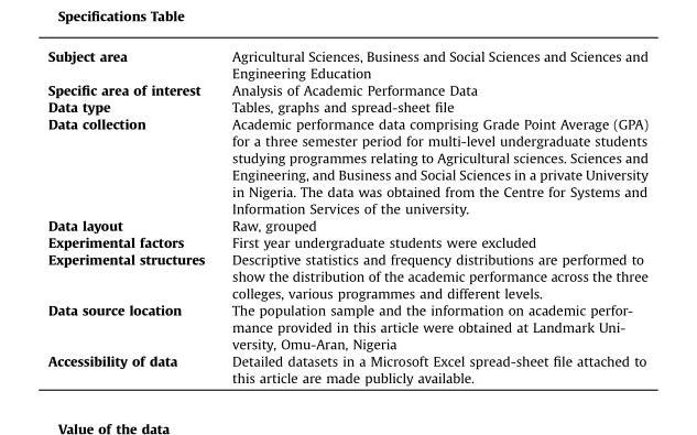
<table><tbody><tr><td>Subject area</td><td>Agricultural Sciences, Business and Social Sciences and Sciences and Engineering Education</td></tr><tr><td>Specific area of interest</td><td>Analysis of Academic Performance Data</td></tr><tr><td>Data type</td><td>Tables, graphs and spread-sheet file</td></tr><tr><td>Data collection</td><td>Academic performance data comprising Grade Point Average (GPA) for a three semester period for multi-level undergraduate students studying programmes relating to Agricultural sciences. Sciences and Engineering, and Business and Social Sciences in a private University in Nigeria. The data was obtained from the Centre for Systems and Information Services of the university.</td></tr><tr><td>Data layout</td><td>Raw, grouped</td></tr><tr><td>Experimental factors</td><td>First year undergraduate students were excluded</td></tr><tr><td>Experimental structures</td><td>Descriptive statistics and frequency distributions are performed to show the distribution of the academic performance across the three colleges, various programmes and different levels.</td></tr><tr><td>Data source location</td><td>The population sample and the information on academic perfor- mance provided in this article were obtained at Landmark Uni- versity, Omu-Aran, Nigeria</td></tr><tr><td>Accessibility of data</td><td>Detailed datasets in a Microsoft Excel spread-sheet file attached to this article are made publicly available.</td></tr></tbody></table>